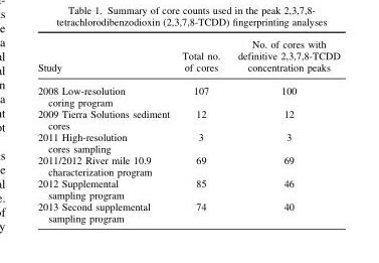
<table><thead><tr><td>Study</td><td>Total no. of cores</td><td>No. of cores with definitive 2,3,7,8-TCDD concentration peaks</td></tr></thead><tbody><tr><td>2008 Low-resolution coring program</td><td>107</td><td>100</td></tr><tr><td>2009 Tierra Solutions sediment cores</td><td>12</td><td>12</td></tr><tr><td>2011 High-resolution cores sampling</td><td>3</td><td>3</td></tr><tr><td>2011/2012 River mile 10.9 characterization program</td><td>69</td><td>69</td></tr><tr><td>2012 Supplemental sampling program</td><td>85</td><td>46</td></tr><tr><td>2013 Second supplemental sampling program</td><td>74</td><td>40</td></tr></tbody></table>